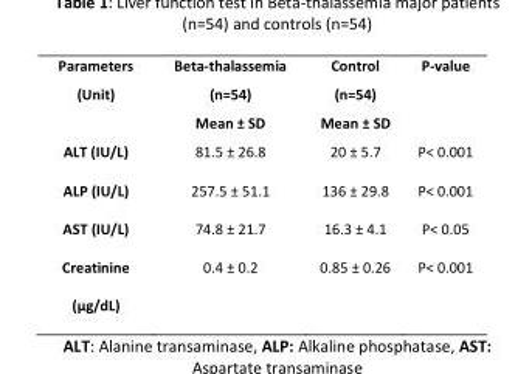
<table><tbody><tr><td>Parameters (Unit)</td><td>Beta-thalassemia (n=54) Mean ± SD</td><td>Control (n=54) Mean ± SD</td><td>P-value</td></tr><tr><td>ALT (IU/L)</td><td>81.5 ± 26.8</td><td>20 ± 5.7</td><td>P&lt; 0.001</td></tr><tr><td>ALP (IU/L)</td><td>257.5 ± 51.1</td><td>136 ± 29.8</td><td>P&lt; 0.001</td></tr><tr><td>AST (IU/L)</td><td>74.8 ± 21.7</td><td>16.3 ± 4.1</td><td>P&lt; 0.05</td></tr><tr><td>Creatinine (µg/dL)</td><td>0.4 ± 0.2</td><td>0.85 ± 0.26</td><td>P&lt; 0.001</td></tr></tbody></table>